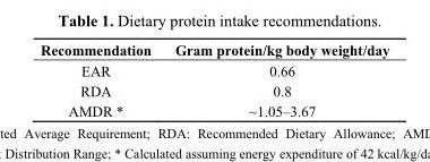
<table><thead><tr><td>Recommendation</td><td>Gram protein/kg body weight/day</td></tr></thead><tbody><tr><td>EAR</td><td>0.66</td></tr><tr><td>RDA</td><td>0.8</td></tr><tr><td>AMDR *</td><td>~1.05–3.67</td></tr></tbody></table>